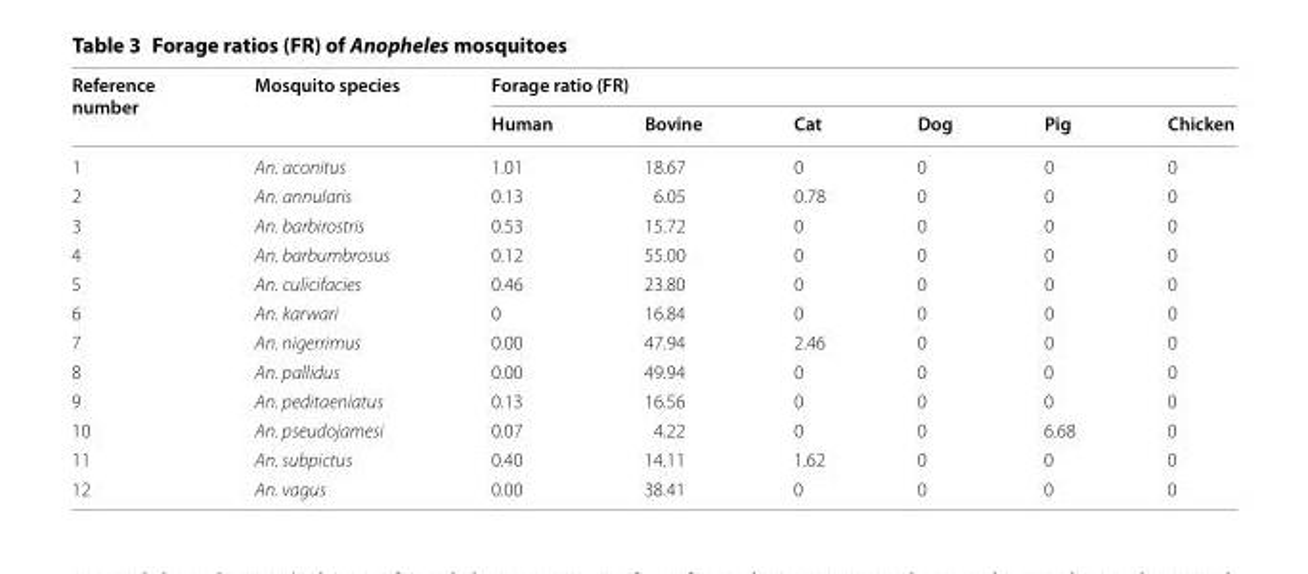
<table><thead><tr><td rowspan="2">Reference number</td><td rowspan="2">Mosquito species</td><td colspan="6">Forage ratio (FR)</td></tr><tr><td>Human</td><td>Bovine</td><td>Cat</td><td>Dog</td><td>Pig</td><td>Chicken</td></tr></thead><tbody><tr><td>1</td><td>An. aconitus</td><td>1.01</td><td>18.67</td><td>0</td><td>0</td><td>0</td><td>0</td></tr><tr><td>2</td><td>An. annularis</td><td>0.13</td><td>6.05</td><td>0.78</td><td>0</td><td>0</td><td>0</td></tr><tr><td>3</td><td>An. barbirostris</td><td>0.53</td><td>15.72</td><td>0</td><td>0</td><td>0</td><td>0</td></tr><tr><td>4</td><td>An. barbumbrosus</td><td>0.12</td><td>55.00</td><td>0</td><td>0</td><td>0</td><td>0</td></tr><tr><td>5</td><td>An. culicifacies</td><td>0.46</td><td>23.80</td><td>0</td><td>0</td><td>0</td><td>0</td></tr><tr><td>6</td><td>An. karwari</td><td>0</td><td>16.84</td><td>0</td><td>0</td><td>0</td><td>0</td></tr><tr><td>7</td><td>An. nigerrimus</td><td>0.00</td><td>47.94</td><td>2.46</td><td>0</td><td>0</td><td>0</td></tr><tr><td>8</td><td>An. pallidus</td><td>0.00</td><td>49.94</td><td>0</td><td>0</td><td>0</td><td>0</td></tr><tr><td>9</td><td>An. peditaeniatus</td><td>0.13</td><td>16.56</td><td>0</td><td>0</td><td>0</td><td>0</td></tr><tr><td>10</td><td>An. pseudojamesi</td><td>0.07</td><td>4.22</td><td>0</td><td>0</td><td>6.68</td><td>0</td></tr><tr><td>11</td><td>An. subpictus</td><td>0.40</td><td>14.11</td><td>1.62</td><td>0</td><td>0</td><td>0</td></tr><tr><td>12</td><td>An. vagus</td><td>0.00</td><td>38.41</td><td>0</td><td>0</td><td>0</td><td>0</td></tr></tbody></table>